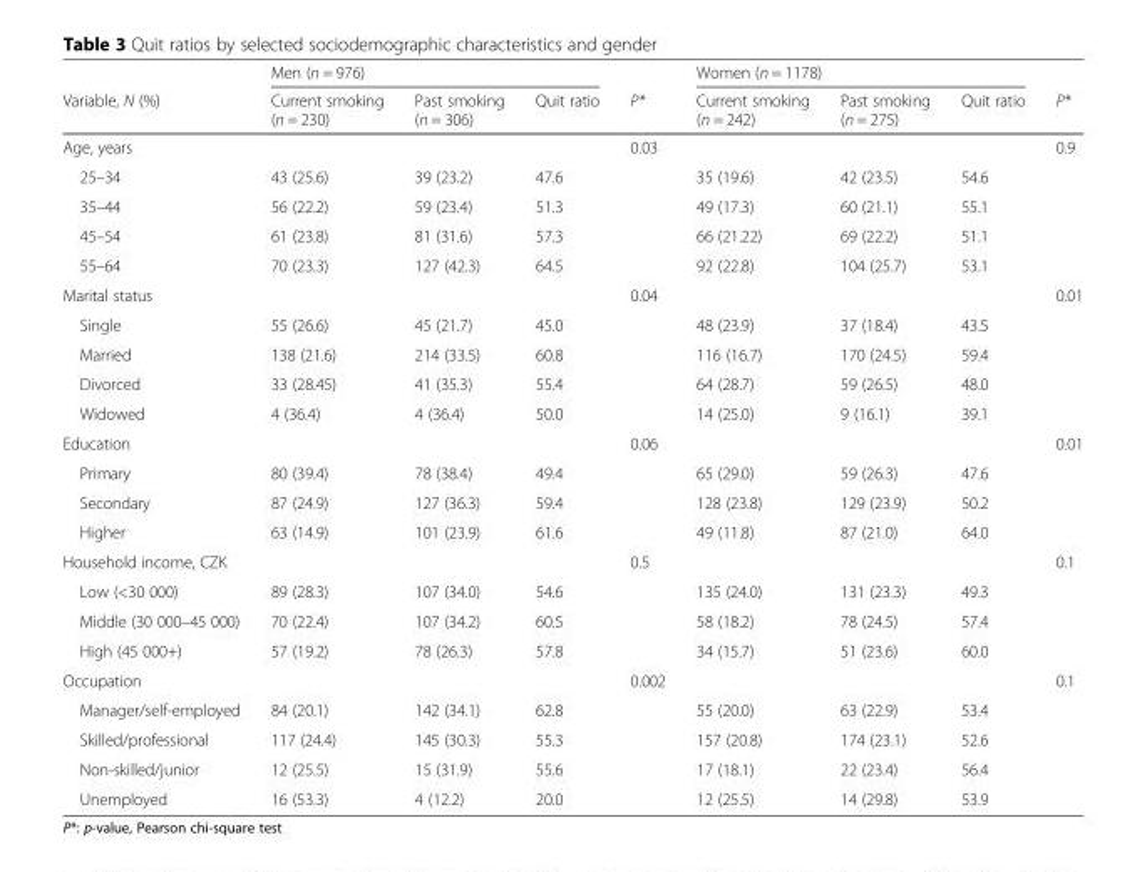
<table><thead><tr><td rowspan="2">Variable, N (%)</td><td colspan="3">Men (n = 976)</td><td rowspan="2">P*</td><td colspan="3">Women (n = 1178)</td><td rowspan="2">P*</td></tr><tr><td>Current smoking (n = 230)</td><td>Past smoking (n = 306)</td><td>Quit ratio</td><td>Current smoking (n = 242)</td><td>Past smoking (n = 275)</td><td>Quit ratio</td></tr></thead><tbody><tr><td>Age, years</td><td></td><td></td><td></td><td>0.03</td><td></td><td></td><td></td><td>0.9</td></tr><tr><td>25–34</td><td>43 (25.6)</td><td>39 (23.2)</td><td>47.6</td><td></td><td>35 (19.6)</td><td>42 (23.5)</td><td>54.6</td><td></td></tr><tr><td>35–44</td><td>56 (22.2)</td><td>59 (23.4)</td><td>51.3</td><td></td><td>49 (17.3)</td><td>60 (21.1)</td><td>55.1</td><td></td></tr><tr><td>45–54</td><td>61 (23.8)</td><td>81 (31.6)</td><td>57.3</td><td></td><td>66 (21.22)</td><td>69 (22.2)</td><td>51.1</td><td></td></tr><tr><td>55–64</td><td>70 (23.3)</td><td>127 (42.3)</td><td>64.5</td><td></td><td>92 (22.8)</td><td>104 (25.7)</td><td>53.1</td><td></td></tr><tr><td>Marital status</td><td></td><td></td><td></td><td>0.04</td><td></td><td></td><td></td><td>0.01</td></tr><tr><td>Single</td><td>55 (26.6)</td><td>45 (21.7)</td><td>45.0</td><td></td><td>48 (23.9)</td><td>37 (18.4)</td><td>43.5</td><td></td></tr><tr><td>Married</td><td>138 (21.6)</td><td>214 (33.5)</td><td>60.8</td><td></td><td>116 (16.7)</td><td>170 (24.5)</td><td>59.4</td><td></td></tr><tr><td>Divorced</td><td>33 (28.45)</td><td>41 (35.3)</td><td>55.4</td><td></td><td>64 (28.7)</td><td>59 (26.5)</td><td>48.0</td><td></td></tr><tr><td>Widowed</td><td>4 (36.4)</td><td>4 (36.4)</td><td>50.0</td><td></td><td>14 (25.0)</td><td>9 (16.1)</td><td>39.1</td><td></td></tr><tr><td>Education</td><td></td><td></td><td></td><td>0.06</td><td></td><td></td><td></td><td>0.01</td></tr><tr><td>Primary</td><td>80 (39.4)</td><td>78 (38.4)</td><td>49.4</td><td></td><td>65 (29.0)</td><td>59 (26.3)</td><td>47.6</td><td></td></tr><tr><td>Secondary</td><td>87 (24.9)</td><td>127 (36.3)</td><td>59.4</td><td></td><td>128 (23.8)</td><td>129 (23.9)</td><td>50.2</td><td></td></tr><tr><td>Higher</td><td>63 (14.9)</td><td>101 (23.9)</td><td>61.6</td><td></td><td>49 (11.8)</td><td>87 (21.0)</td><td>64.0</td><td></td></tr><tr><td>Household income, CZK</td><td></td><td></td><td></td><td>0.5</td><td></td><td></td><td></td><td>0.1</td></tr><tr><td>Low (&lt;30 000)</td><td>89 (28.3)</td><td>107 (34.0)</td><td>54.6</td><td></td><td>135 (24.0)</td><td>131 (23.3)</td><td>49.3</td><td></td></tr><tr><td>Middle (30 000–45 000)</td><td>70 (22.4)</td><td>107 (34.2)</td><td>60.5</td><td></td><td>58 (18.2)</td><td>78 (24.5)</td><td>57.4</td><td></td></tr><tr><td>High (45 000+)</td><td>57 (19.2)</td><td>78 (26.3)</td><td>57.8</td><td></td><td>34 (15.7)</td><td>51 (23.6)</td><td>60.0</td><td></td></tr><tr><td>Occupation</td><td></td><td></td><td></td><td>0.002</td><td></td><td></td><td></td><td>0.1</td></tr><tr><td>Manager/self-employed</td><td>84 (20.1)</td><td>142 (34.1)</td><td>62.8</td><td></td><td>55 (20.0)</td><td>63 (22.9)</td><td>53.4</td><td></td></tr><tr><td>Skilled/professional</td><td>117 (24.4)</td><td>145 (30.3)</td><td>55.3</td><td></td><td>157 (20.8)</td><td>174 (23.1)</td><td>52.6</td><td></td></tr><tr><td>Non-skilled/junior</td><td>12 (25.5)</td><td>15 (31.9)</td><td>55.6</td><td></td><td>17 (18.1)</td><td>22 (23.4)</td><td>56.4</td><td></td></tr><tr><td>Unemployed</td><td>16 (53.3)</td><td>4 (12.2)</td><td>20.0</td><td></td><td>12 (25.5)</td><td>14 (29.8)</td><td>53.9</td><td></td></tr></tbody></table>